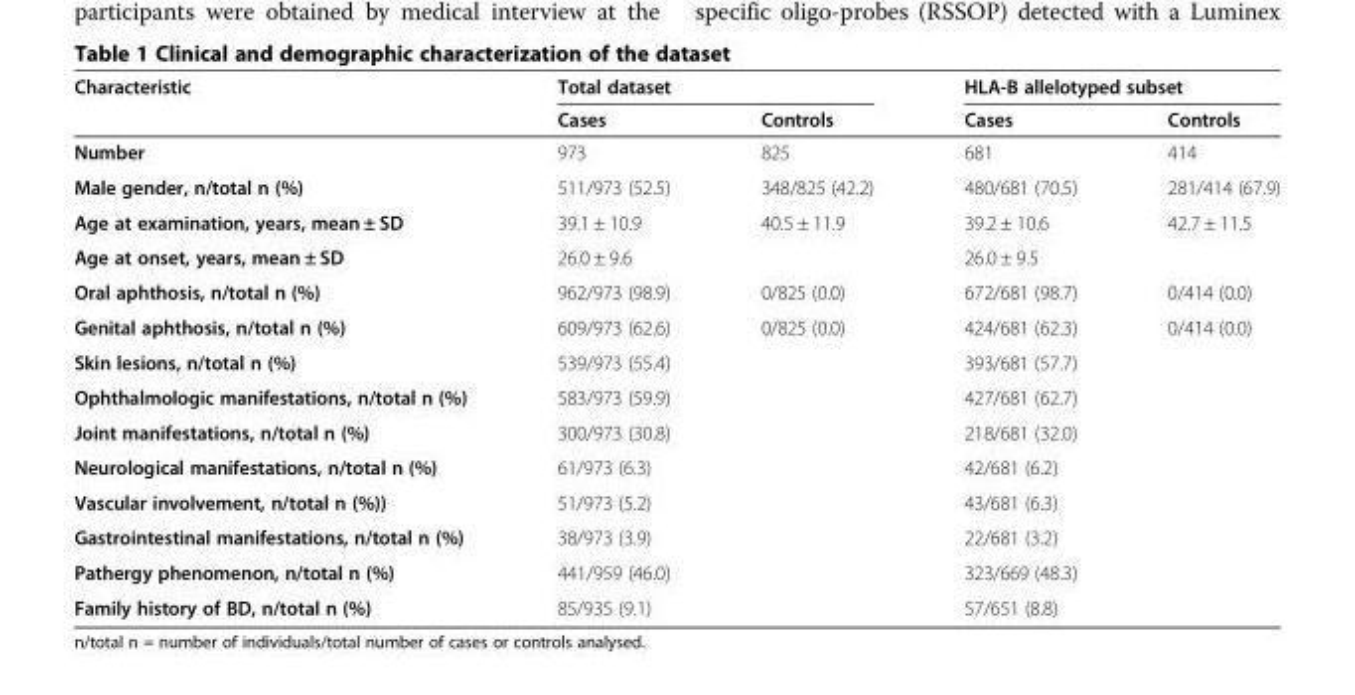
<table><thead><tr><td rowspan="2">Characteristic</td><td colspan="2">Total dataset</td><td colspan="2">HLA-B allelotyped subset</td></tr><tr><td>Cases</td><td>Controls</td><td>Cases</td><td>Controls</td></tr></thead><tbody><tr><td>Number</td><td>973</td><td>825</td><td>681</td><td>414</td></tr><tr><td>Male gender, n/total n (%)</td><td>511/973 (52.5)</td><td>348/825 (42.2)</td><td>480/681 (70.5)</td><td>281/414 (67.9)</td></tr><tr><td>Age at examination, years, mean ± SD</td><td>39.1 ± 10.9</td><td>40.5 ± 11.9</td><td>39.2 ± 10.6</td><td>42.7 ± 11.5</td></tr><tr><td>Age at onset, years, mean ± SD</td><td>26.0 ± 9.6</td><td></td><td>26.0 ± 9.5</td><td></td></tr><tr><td>Oral aphthosis, n/total n (%)</td><td>962/973 (98.9)</td><td>0/825 (0.0)</td><td>672/681 (98.7)</td><td>0/414 (0.0)</td></tr><tr><td>Genital aphthosis, n/total n (%)</td><td>609/973 (62.6)</td><td>0/825 (0.0)</td><td>424/681 (62.3)</td><td>0/414 (0.0)</td></tr><tr><td>Skin lesions, n/total n (%)</td><td>539/973 (55.4)</td><td></td><td>393/681 (57.7)</td><td></td></tr><tr><td>Ophthalmologic manifestations, n/total n (%)</td><td>583/973 (59.9)</td><td></td><td>427/681 (62.7)</td><td></td></tr><tr><td>Joint manifestations, n/total n (%)</td><td>300/973 (30.8)</td><td></td><td>218/681 (32.0)</td><td></td></tr><tr><td>Neurological manifestations, n/total n (%)</td><td>61/973 (6.3)</td><td></td><td>42/681 (6.2)</td><td></td></tr><tr><td>Vascular involvement, n/total n (%))</td><td>51/973 (5.2)</td><td></td><td>43/681 (6.3)</td><td></td></tr><tr><td>Gastrointestinal manifestations, n/total n (%)</td><td>38/973 (3.9)</td><td></td><td>22/681 (3.2)</td><td></td></tr><tr><td>Pathergy phenomenon, n/total n (%)</td><td>441/959 (46.0)</td><td></td><td>323/669 (48.3)</td><td></td></tr><tr><td>Family history of BD, n/total n (%)</td><td>85/935 (9.1)</td><td></td><td>57/651 (8.8)</td><td></td></tr></tbody></table>